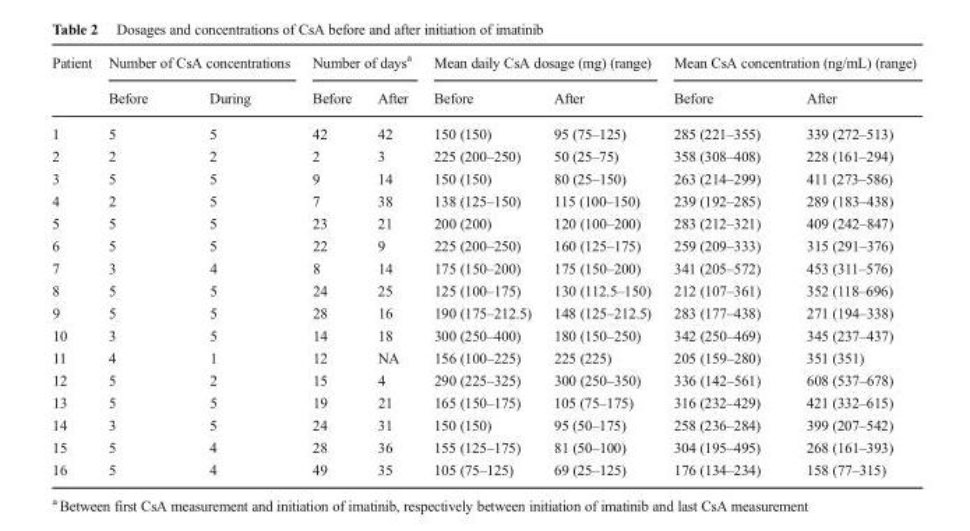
<table><thead><tr><td rowspan="2">Patient</td><td colspan="2">Number of CsA concentrations</td><td colspan="2">Number of days<sup>a</sup></td><td colspan="2">Mean daily CsA dosage (mg) (range)</td><td colspan="2">Mean CsA concentration (ng/mL) (range)</td></tr><tr><td>Before</td><td>During</td><td>Before</td><td>After</td><td>Before</td><td>After</td><td>Before</td><td>After</td></tr></thead><tbody><tr><td>1</td><td>5</td><td>5</td><td>42</td><td>42</td><td>150 (150)</td><td>95 (75–125)</td><td>285 (221–355)</td><td>339 (272–513)</td></tr><tr><td>2</td><td>2</td><td>2</td><td>2</td><td>3</td><td>225 (200–250)</td><td>50 (25–75)</td><td>358 (308–408)</td><td>228 (161–294)</td></tr><tr><td>3</td><td>5</td><td>5</td><td>9</td><td>14</td><td>150 (150)</td><td>80 (25–150)</td><td>263 (214–299)</td><td>411 (273–586)</td></tr><tr><td>4</td><td>2</td><td>5</td><td>7</td><td>38</td><td>138 (125–150)</td><td>115 (100–150)</td><td>239 (192–285)</td><td>289 (183–438)</td></tr><tr><td>5</td><td>5</td><td>5</td><td>23</td><td>21</td><td>200 (200)</td><td>120 (100–200)</td><td>283 (212–321)</td><td>409 (242–847)</td></tr><tr><td>6</td><td>5</td><td>5</td><td>22</td><td>9</td><td>225 (200–250)</td><td>160 (125–175)</td><td>259 (209–333)</td><td>315 (291–376)</td></tr><tr><td>7</td><td>3</td><td>4</td><td>8</td><td>14</td><td>175 (150–200)</td><td>175 (150–200)</td><td>341 (205–572)</td><td>453 (311–576)</td></tr><tr><td>8</td><td>5</td><td>5</td><td>24</td><td>25</td><td>125 (100–175)</td><td>130 (112.5–150)</td><td>212 (107–361)</td><td>352 (118–696)</td></tr><tr><td>9</td><td>5</td><td>5</td><td>28</td><td>16</td><td>190 (175–212.5)</td><td>148 (125–212.5)</td><td>283 (177–438)</td><td>271 (194–338)</td></tr><tr><td>10</td><td>3</td><td>5</td><td>14</td><td>18</td><td>300 (250–400)</td><td>180 (150–250)</td><td>342 (250–469)</td><td>345 (237–437)</td></tr><tr><td>11</td><td>4</td><td>1</td><td>12</td><td>NA</td><td>156 (100–225)</td><td>225 (225)</td><td>205 (159–280)</td><td>351 (351)</td></tr><tr><td>12</td><td>5</td><td>2</td><td>15</td><td>4</td><td>290 (225–325)</td><td>300 (250–350)</td><td>336 (142–561)</td><td>608 (537–678)</td></tr><tr><td>13</td><td>5</td><td>5</td><td>19</td><td>21</td><td>165 (150–175)</td><td>105 (75–175)</td><td>316 (232–429)</td><td>421 (332–615)</td></tr><tr><td>14</td><td>3</td><td>5</td><td>24</td><td>31</td><td>150 (150)</td><td>95 (50–175)</td><td>258 (236–284)</td><td>399 (207–542)</td></tr><tr><td>15</td><td>5</td><td>4</td><td>28</td><td>36</td><td>155 (125–175)</td><td>81 (50–100)</td><td>304 (195–495)</td><td>268 (161–393)</td></tr><tr><td>16</td><td>5</td><td>4</td><td>49</td><td>35</td><td>105 (75–125)</td><td>69 (25–125)</td><td>176 (134–234)</td><td>158 (77–315)</td></tr></tbody></table>